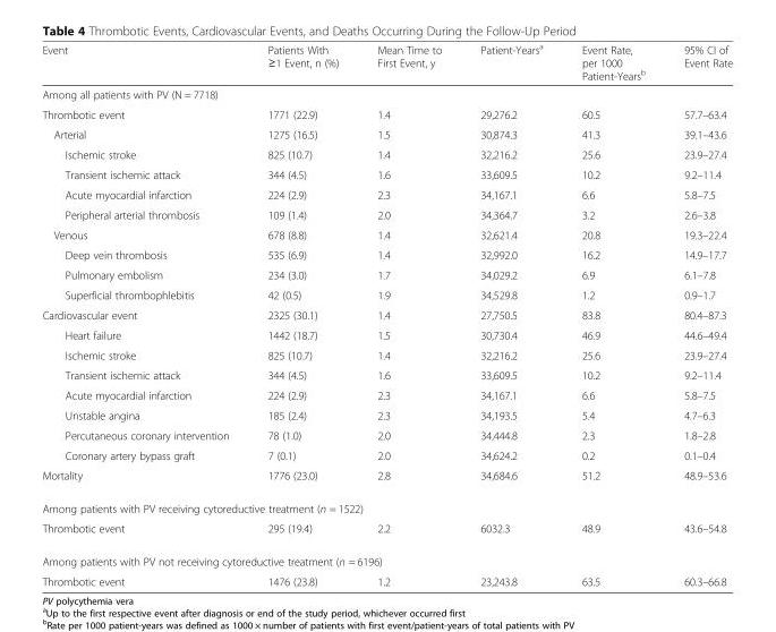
<table><thead><tr><td>Event</td><td>Patients With ≥1 Event, n (%)</td><td>Mean Time to First Event, y</td><td>Patient-Years<sup>a</sup></td><td>Event Rate, per 1000 Patient-Years<sup>b</sup></td><td>95% CI of Event Rate</td></tr></thead><tbody><tr><td colspan="6">Among all patients with PV (N = 7718)</td></tr><tr><td>Thrombotic event</td><td>1771 (22.9)</td><td>1.4</td><td>29,276.2</td><td>60.5</td><td>57.7–63.4</td></tr><tr><td>Arterial</td><td>1275 (16.5)</td><td>1.5</td><td>30,874.3</td><td>41.3</td><td>39.1–43.6</td></tr><tr><td>Ischemic stroke</td><td>825 (10.7)</td><td>1.4</td><td>32,216.2</td><td>25.6</td><td>23.9–27.4</td></tr><tr><td>Transient ischemic attack</td><td>344 (4.5)</td><td>1.6</td><td>33,609.5</td><td>10.2</td><td>9.2–11.4</td></tr><tr><td>Acute myocardial infarction</td><td>224 (2.9)</td><td>2.3</td><td>34,167.1</td><td>6.6</td><td>5.8–7.5</td></tr><tr><td>Peripheral arterial thrombosis</td><td>109 (1.4)</td><td>2.0</td><td>34,364.7</td><td>3.2</td><td>2.6–3.8</td></tr><tr><td>Venous</td><td>678 (8.8)</td><td>1.4</td><td>32,621.4</td><td>20.8</td><td>19.3–22.4</td></tr><tr><td>Deep vein thrombosis</td><td>535 (6.9)</td><td>1.4</td><td>32,992.0</td><td>16.2</td><td>14.9–17.7</td></tr><tr><td>Pulmonary embolism</td><td>234 (3.0)</td><td>1.7</td><td>34,029.2</td><td>6.9</td><td>6.1–7.8</td></tr><tr><td>Superficial thrombophlebitis</td><td>42 (0.5)</td><td>1.9</td><td>34,529.8</td><td>1.2</td><td>0.9–1.7</td></tr><tr><td>Cardiovascular event</td><td>2325 (30.1)</td><td>1.4</td><td>27,750.5</td><td>83.8</td><td>80.4–87.3</td></tr><tr><td>Heart failure</td><td>1442 (18.7)</td><td>1.5</td><td>30,730.4</td><td>46.9</td><td>44.6–49.4</td></tr><tr><td>Ischemic stroke</td><td>825 (10.7)</td><td>1.4</td><td>32,216.2</td><td>25.6</td><td>23.9–27.4</td></tr><tr><td>Transient ischemic attack</td><td>344 (4.5)</td><td>1.6</td><td>33,609.5</td><td>10.2</td><td>9.2–11.4</td></tr><tr><td>Acute myocardial infarction</td><td>224 (2.9)</td><td>2.3</td><td>34,167.1</td><td>6.6</td><td>5.8–7.5</td></tr><tr><td>Unstable angina</td><td>185 (2.4)</td><td>2.3</td><td>34,193.5</td><td>5.4</td><td>4.7–6.3</td></tr><tr><td>Percutaneous coronary intervention</td><td>78 (1.0)</td><td>2.0</td><td>34,444.8</td><td>2.3</td><td>1.8–2.8</td></tr><tr><td>Coronary artery bypass graft</td><td>7 (0.1)</td><td>2.0</td><td>34,624.2</td><td>0.2</td><td>0.1–0.4</td></tr><tr><td>Mortality</td><td>1776 (23.0)</td><td>2.8</td><td>34,684.6</td><td>51.2</td><td>48.9–53.6</td></tr><tr><td colspan="6">Among patients with PV receiving cytoreductive treatment (n = 1522)</td></tr><tr><td>Thrombotic event</td><td>295 (19.4)</td><td>2.2</td><td>6032.3</td><td>48.9</td><td>43.6–54.8</td></tr><tr><td colspan="6">Among patients with PV not receiving cytoreductive treatment (n = 6196)</td></tr><tr><td>Thrombotic event</td><td>1476 (23.8)</td><td>1.2</td><td>23,243.8</td><td>63.5</td><td>60.3–66.8</td></tr></tbody></table>